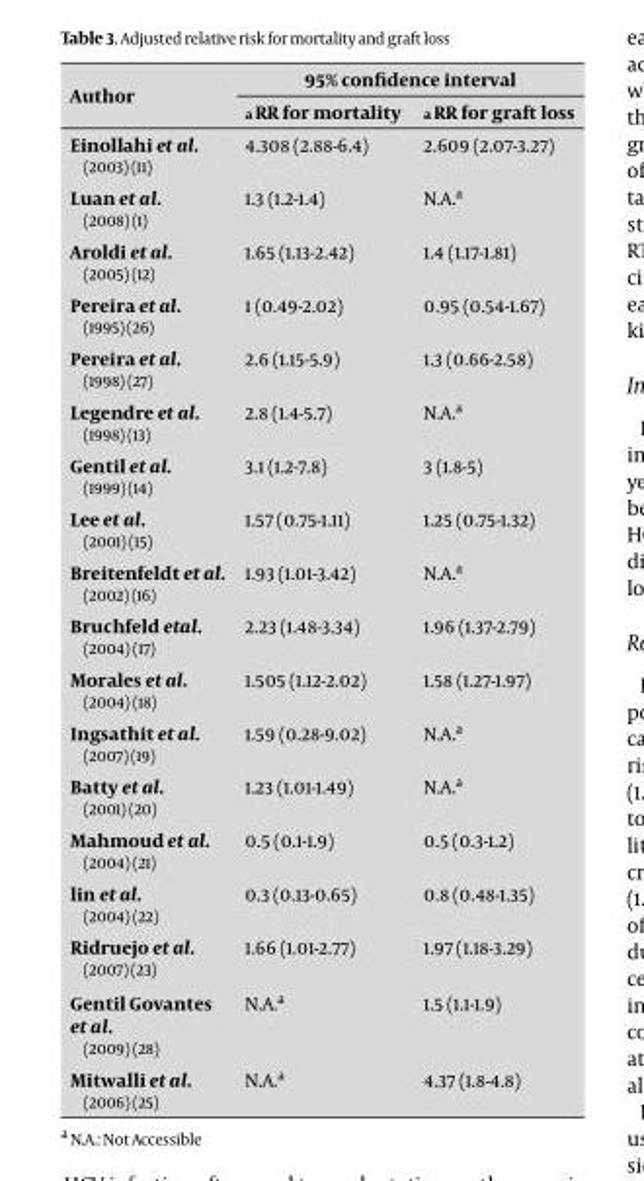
<table><thead><tr><td rowspan="2">Author</td><td colspan="2">95% confidence interval</td></tr><tr><td>a RR for mortality</td><td>a RR for graft loss</td></tr></thead><tbody><tr><td>Einollahi et al. (2003) (11)</td><td>4.308 (2.88-6.4)</td><td>2.609 (2.07-3.27)</td></tr><tr><td>Luan et al. (2008) (1)</td><td>1.3 (1.2-1.4)</td><td>N.A.<sup>a</sup></td></tr><tr><td>Aroldi et al. (2005) (12)</td><td>1.65 (1.13-2.42)</td><td>1.4 (1.17-1.81)</td></tr><tr><td>Pereira et al. (1995) (26)</td><td>1 (0.49-2.02)</td><td>0.95 (0.54-1.67)</td></tr><tr><td>Pereira et al. (1998) (27)</td><td>2.6 (1.15-5.9)</td><td>1.3 (0.66-2.58)</td></tr><tr><td>Legendre et al. (1998) (13)</td><td>2.8 (1.4-5.7)</td><td>N.A.<sup>a</sup></td></tr><tr><td>Gentil et al. (1999) (14)</td><td>3.1 (1.2-7.8)</td><td>3 (1.8-5)</td></tr><tr><td>Lee et al. (2001) (15)</td><td>1.57 (0.75-1.11)</td><td>1.25 (0.75-1.32)</td></tr><tr><td>Breitenfeldt et al. (2002) (16)</td><td>1.93 (1.01-3.42)</td><td>N.A.<sup>a</sup></td></tr><tr><td>Bruchfeld etal. (2004) (17)</td><td>2.23 (1.48-3.34)</td><td>1.96 (1.37-2.79)</td></tr><tr><td>Morales et al. (2004) (18)</td><td>1.505 (1.12-2.02)</td><td>1.58 (1.27-1.97)</td></tr><tr><td>Ingsathit et al. (2007) (19)</td><td>1.59 (0.28-9.02)</td><td>N.A.<sup>a</sup></td></tr><tr><td>Batty et al. (2001) (20)</td><td>1.23 (1.01-1.49)</td><td>N.A.<sup>a</sup></td></tr><tr><td>Mahmoud et al. (2004) (21)</td><td>0.5 (0.1-1.9)</td><td>0.5 (0.3-1.2)</td></tr><tr><td>lin et al. (2004) (22)</td><td>0.3 (0.13-0.65)</td><td>0.8 (0.48-1.35)</td></tr><tr><td>Ridruejo et al. (2007) (23)</td><td>1.66 (1.01-2.77)</td><td>1.97 (1.18-3.29)</td></tr><tr><td>Gentil Govantes et al. (2009) (28)</td><td>N.A.<sup>a</sup></td><td>1.5 (1.1-1.9)</td></tr><tr><td>Mitwalli et al. (2006) (25)</td><td>N.A.<sup>a</sup></td><td>4.37 (1.8-4.8)</td></tr></tbody></table>